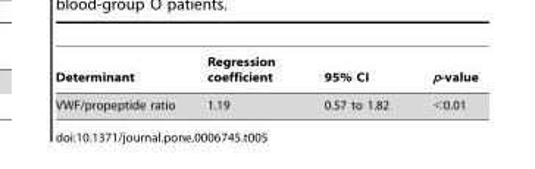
<table><thead><tr><td>Determinant</td><td>Regression coefficient</td><td>95% CI</td><td>p-value</td></tr></thead><tbody><tr><td>VWF/propeptide ratio</td><td>1.19</td><td>0.57 to 1.82</td><td>&lt;0.01</td></tr></tbody></table>